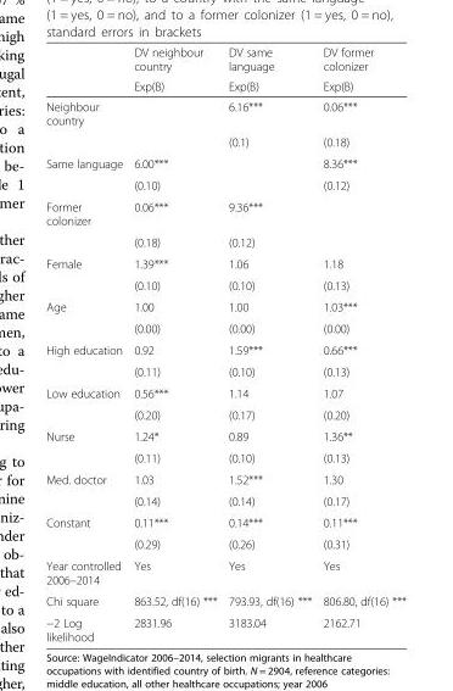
<table><thead><tr><td rowspan="2"></td><td rowspan="2">DV neighbour country Exp(B)</td><td rowspan="2">DV same language Exp(B)</td><td rowspan="2">DV former colonizer Exp(B)</td></tr><tr></tr></thead><tbody><tr><td rowspan="2">Neighbour country</td><td></td><td>6.16***</td><td>0.06***</td></tr><tr><td></td><td>(0.1)</td><td>(0.18)</td></tr><tr><td rowspan="2">Same language</td><td>6.00***</td><td></td><td>8.36***</td></tr><tr><td>(0.10)</td><td></td><td>(0.12)</td></tr><tr><td rowspan="2">Former colonizer</td><td>0.06***</td><td>9.36***</td><td></td></tr><tr><td>(0.18)</td><td>(0.12)</td><td></td></tr><tr><td rowspan="2">Female</td><td>1.39***</td><td>1.06</td><td>1.18</td></tr><tr><td>(0.10)</td><td>(0.10)</td><td>(0.13)</td></tr><tr><td rowspan="2">Age</td><td>1.00</td><td>1.00</td><td>1.03***</td></tr><tr><td>(0.00)</td><td>(0.00)</td><td>(0.00)</td></tr><tr><td rowspan="2">High education</td><td>0.92</td><td>1.59***</td><td>0.66***</td></tr><tr><td>(0.11)</td><td>(0.10)</td><td>(0.13)</td></tr><tr><td rowspan="2">Low education</td><td>0.56***</td><td>1.14</td><td>1.07</td></tr><tr><td>(0.20)</td><td>(0.17)</td><td>(0.20)</td></tr><tr><td rowspan="2">Nurse</td><td>1.24*</td><td>0.89</td><td>1.36**</td></tr><tr><td>(0.11)</td><td>(0.10)</td><td>(0.13)</td></tr><tr><td rowspan="2">Med. doctor</td><td>1.03</td><td>1.52***</td><td>1.30</td></tr><tr><td>(0.14)</td><td>(0.14)</td><td>(0.17)</td></tr><tr><td rowspan="2">Constant</td><td>0.11***</td><td>0.14***</td><td>0.11***</td></tr><tr><td>(0.29)</td><td>(0.26)</td><td>(0.31)</td></tr><tr><td>Year controlled 2006–2014</td><td>Yes</td><td>Yes</td><td>Yes</td></tr><tr><td>Chi square</td><td>863.52, df(16) ***</td><td>793.93, df(16) ***</td><td>806.80, df(16) ***</td></tr><tr><td>−2 Log likelihood</td><td>2831.96</td><td>3183.04</td><td>2162.71</td></tr></tbody></table>